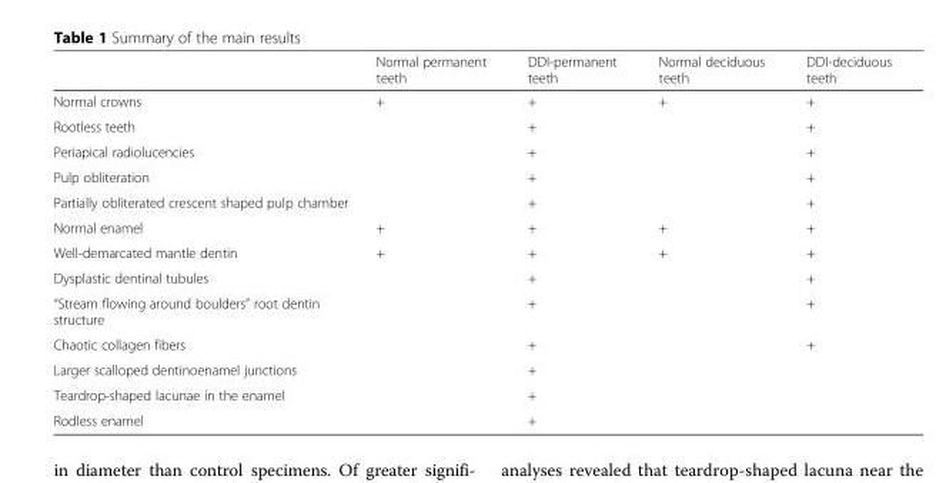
<table><thead><tr><td></td><td>Normal permanent teeth</td><td>DDI-permanent teeth</td><td>Normal deciduous teeth</td><td>DDI-deciduous teeth</td></tr></thead><tbody><tr><td>Normal crowns</td><td>+</td><td>+</td><td>+</td><td>+</td></tr><tr><td>Rootless teeth</td><td></td><td>+</td><td></td><td>+</td></tr><tr><td>Periapical radiolucencies</td><td></td><td>+</td><td></td><td>+</td></tr><tr><td>Pulp obliteration</td><td></td><td>+</td><td></td><td>+</td></tr><tr><td>Partially obliterated crescent shaped pulp chamber</td><td></td><td>+</td><td></td><td>+</td></tr><tr><td>Normal enamel</td><td>+</td><td>+</td><td>+</td><td>+</td></tr><tr><td>Well-demarcated mantle dentin</td><td>+</td><td>+</td><td>+</td><td>+</td></tr><tr><td>Dysplastic dentinal tubules</td><td></td><td>+</td><td></td><td>+</td></tr><tr><td>“Stream flowing around boulders” root dentin structure</td><td></td><td>+</td><td></td><td>+</td></tr><tr><td>Chaotic collagen fibers</td><td></td><td>+</td><td></td><td>+</td></tr><tr><td>Larger scalloped dentinoenamel junctions</td><td></td><td>+</td><td></td><td></td></tr><tr><td>Teardrop-shaped lacunae in the enamel</td><td></td><td>+</td><td></td><td></td></tr><tr><td>Rodless enamel</td><td></td><td>+</td><td></td><td></td></tr></tbody></table>